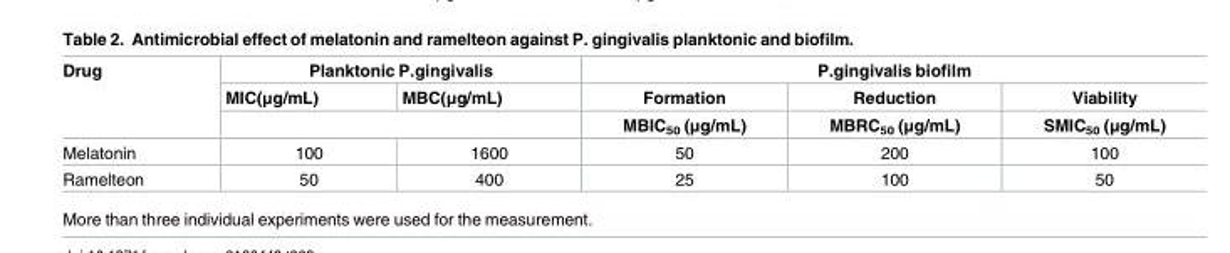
<table><thead><tr><td rowspan="3">Drug</td><td colspan="2">Planktonic P.gingivalis</td><td colspan="3">P.gingivalis biofilm</td></tr><tr><td rowspan="2">MIC(μg/mL)</td><td rowspan="2">MBC(μg/mL)</td><td rowspan="2">Formation MBIC<sub>50</sub> (μg/mL)</td><td rowspan="2">Reduction MBRC<sub>50</sub> (μg/mL)</td><td rowspan="2">Viability SMIC<sub>50</sub> (μg/mL)</td></tr><tr></tr></thead><tbody><tr><td>Melatonin</td><td>100</td><td>1600</td><td>50</td><td>200</td><td>100</td></tr><tr><td>Ramelteon</td><td>50</td><td>400</td><td>25</td><td>100</td><td>50</td></tr></tbody></table>